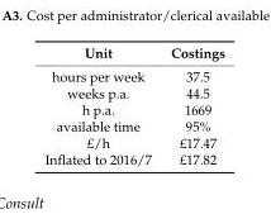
<table><thead><tr><td>Unit</td><td>Costings</td></tr></thead><tbody><tr><td>hours per week</td><td>37.5</td></tr><tr><td>weeks p.a.</td><td>44.5</td></tr><tr><td>h p.a.</td><td>1669</td></tr><tr><td>available time</td><td>95%</td></tr><tr><td>£/h</td><td>£17.47</td></tr><tr><td>Inflated to 2016/7</td><td>£17.82</td></tr></tbody></table>